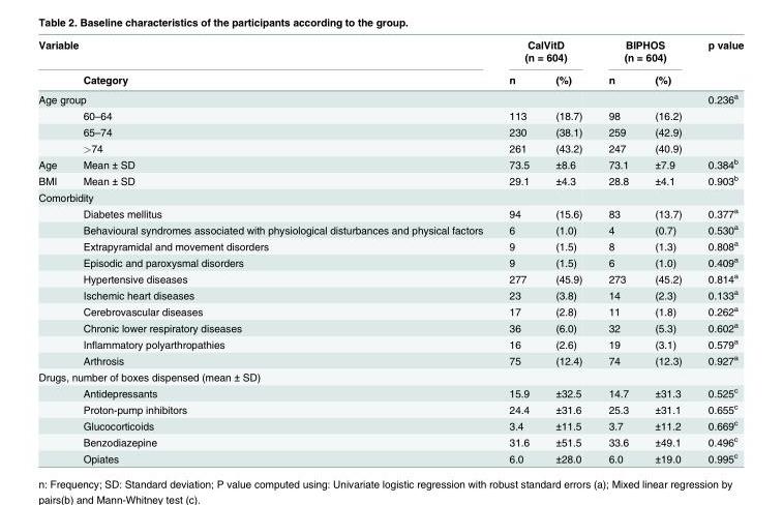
<table><thead><tr><td colspan="2">Variable</td><td colspan="2">CalVitD (n = 604)</td><td colspan="2">BIPHOS (n = 604)</td><td rowspan="2">p value</td></tr><tr><td></td><td>Category</td><td>n</td><td>(%)</td><td>n</td><td>(%)</td></tr></thead><tbody><tr><td colspan="2">Age group</td><td></td><td></td><td></td><td></td><td>0.236<sup>a</sup></td></tr><tr><td></td><td>60–64</td><td>113</td><td>(18.7)</td><td>98</td><td>(16.2)</td><td></td></tr><tr><td></td><td>65–74</td><td>230</td><td>(38.1)</td><td>259</td><td>(42.9)</td><td></td></tr><tr><td></td><td>&gt;74</td><td>261</td><td>(43.2)</td><td>247</td><td>(40.9)</td><td></td></tr><tr><td>Age</td><td>Mean ± SD</td><td>73.5</td><td>±8.6</td><td>73.1</td><td>±7.9</td><td>0.384<sup>b</sup></td></tr><tr><td>BMI</td><td>Mean ± SD</td><td>29.1</td><td>±4.3</td><td>28.8</td><td>±4.1</td><td>0.903<sup>b</sup></td></tr><tr><td colspan="7">Comorbidity</td></tr><tr><td></td><td>Diabetes mellitus</td><td>94</td><td>(15.6)</td><td>83</td><td>(13.7)</td><td>0.377<sup>a</sup></td></tr><tr><td></td><td>Behavioural syndromes associated with physiological disturbances and physical factors</td><td>6</td><td>(1.0)</td><td>4</td><td>(0.7)</td><td>0.530<sup>a</sup></td></tr><tr><td></td><td>Extrapyramidal and movement disorders</td><td>9</td><td>(1.5)</td><td>8</td><td>(1.3)</td><td>0.808<sup>a</sup></td></tr><tr><td></td><td>Episodic and paroxysmal disorders</td><td>9</td><td>(1.5)</td><td>6</td><td>(1.0)</td><td>0.409<sup>a</sup></td></tr><tr><td></td><td>Hypertensive diseases</td><td>277</td><td>(45.9)</td><td>273</td><td>(45.2)</td><td>0.814<sup>a</sup></td></tr><tr><td></td><td>Ischemic heart diseases</td><td>23</td><td>(3.8)</td><td>14</td><td>(2.3)</td><td>0.133<sup>a</sup></td></tr><tr><td></td><td>Cerebrovascular diseases</td><td>17</td><td>(2.8)</td><td>11</td><td>(1.8)</td><td>0.262<sup>a</sup></td></tr><tr><td></td><td>Chronic lower respiratory diseases</td><td>36</td><td>(6.0)</td><td>32</td><td>(5.3)</td><td>0.602<sup>a</sup></td></tr><tr><td></td><td>Inflammatory polyarthropathies</td><td>16</td><td>(2.6)</td><td>19</td><td>(3.1)</td><td>0.579<sup>a</sup></td></tr><tr><td></td><td>Arthrosis</td><td>75</td><td>(12.4)</td><td>74</td><td>(12.3)</td><td>0.927<sup>a</sup></td></tr><tr><td colspan="7">Drugs, number of boxes dispensed (mean ± SD)</td></tr><tr><td></td><td>Antidepressants</td><td>15.9</td><td>±32.5</td><td>14.7</td><td>±31.3</td><td>0.525<sup>c</sup></td></tr><tr><td></td><td>Proton-pump inhibitors</td><td>24.4</td><td>±31.6</td><td>25.3</td><td>±31.1</td><td>0.655<sup>c</sup></td></tr><tr><td></td><td>Glucocorticoids</td><td>3.4</td><td>±11.5</td><td>3.7</td><td>±11.2</td><td>0.669<sup>c</sup></td></tr><tr><td></td><td>Benzodiazepine</td><td>31.6</td><td>±51.5</td><td>33.6</td><td>±49.1</td><td>0.496<sup>c</sup></td></tr><tr><td></td><td>Opiates</td><td>6.0</td><td>±28.0</td><td>6.0</td><td>±19.0</td><td>0.995<sup>c</sup></td></tr></tbody></table>